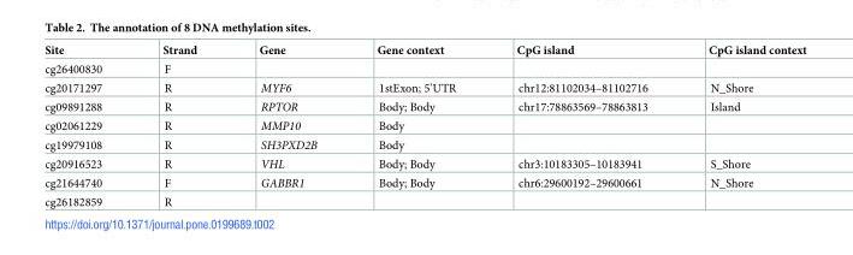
<table><thead><tr><td>Site</td><td>Strand</td><td>Gene</td><td>Gene context</td><td>CpG island</td><td>CpG island context</td></tr></thead><tbody><tr><td>cg26400830</td><td>F</td><td></td><td></td><td></td><td></td></tr><tr><td>cg20171297</td><td>R</td><td>MYF6</td><td>1stExon; 5’UTR</td><td>chr12:81102034–81102716</td><td>N_Shore</td></tr><tr><td>cg09891288</td><td>R</td><td>RPTOR</td><td>Body; Body</td><td>chr17:78863569–78863813</td><td>Island</td></tr><tr><td>cg02061229</td><td>R</td><td>MMP10</td><td>Body</td><td></td><td></td></tr><tr><td>cg19979108</td><td>R</td><td>SH3PXD2B</td><td>Body</td><td></td><td></td></tr><tr><td>cg20916523</td><td>R</td><td>VHL</td><td>Body; Body</td><td>chr3:10183305–10183941</td><td>S_Shore</td></tr><tr><td>cg21644740</td><td>F</td><td>GABBR1</td><td>Body; Body</td><td>chr6:29600192–29600661</td><td>N_Shore</td></tr><tr><td>cg26182859</td><td>R</td><td></td><td></td><td></td><td></td></tr></tbody></table>